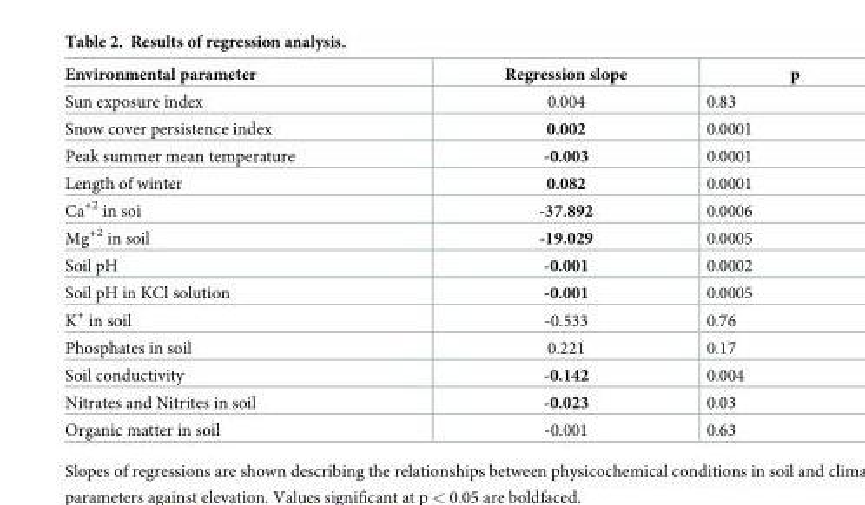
<table><thead><tr><td>Environmental parameter</td><td>Regression slope</td><td>p</td></tr></thead><tbody><tr><td>Sun exposure index</td><td>0.004</td><td>0.83</td></tr><tr><td>Snow cover persistence index</td><td>0.002</td><td>0.0001</td></tr><tr><td>Peak summer mean temperature</td><td>-0.003</td><td>0.0001</td></tr><tr><td>Length of winter</td><td>0.082</td><td>0.0001</td></tr><tr><td>Ca<sup>+2</sup> in soi</td><td>-37.892</td><td>0.0006</td></tr><tr><td>Mg<sup>+2</sup> in soil</td><td>-19.029</td><td>0.0005</td></tr><tr><td>Soil pH</td><td>-0.001</td><td>0.0002</td></tr><tr><td>Soil pH in KCl solution</td><td>-0.001</td><td>0.0005</td></tr><tr><td>K<sup>+</sup> in soil</td><td>-0.533</td><td>0.76</td></tr><tr><td>Phosphates in soil</td><td>0.221</td><td>0.17</td></tr><tr><td>Soil conductivity</td><td>-0.142</td><td>0.004</td></tr><tr><td>Nitrates and Nitrites in soil</td><td>-0.023</td><td>0.03</td></tr><tr><td>Organic matter in soil</td><td>-0.001</td><td>0.63</td></tr></tbody></table>